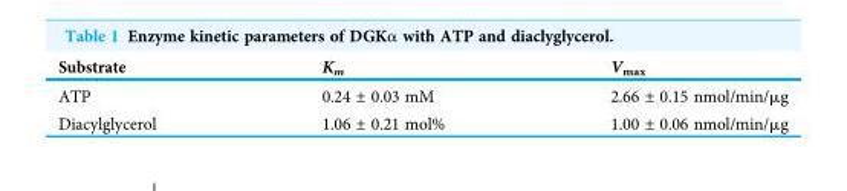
<table><thead><tr><td>Substrate</td><td>K<sub>m</sub></td><td>V<sub>max</sub></td></tr></thead><tbody><tr><td>ATP</td><td>0.24 ± 0.03 mM</td><td>2.66 ± 0.15 nmol/min/μg</td></tr><tr><td>Diacylglycerol</td><td>1.06 ± 0.21 mol%</td><td>1.00 ± 0.06 nmol/min/μg</td></tr></tbody></table>